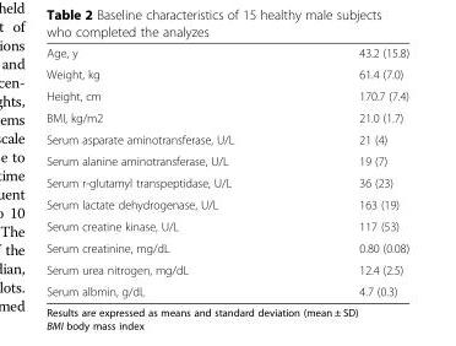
<table><tbody><tr><td>Age, y</td><td>43.2 (15.8)</td></tr><tr><td>Weight, kg</td><td>61.4 (7.0)</td></tr><tr><td>Height, cm</td><td>170.7 (7.4)</td></tr><tr><td>BMI, kg/m2</td><td>21.0 (1.7)</td></tr><tr><td>Serum asparate aminotransferase, U/L</td><td>21 (4)</td></tr><tr><td>Serum alanine aminotransferase, U/L</td><td>19 (7)</td></tr><tr><td>Serum r-glutamyl transpeptidase, U/L</td><td>36 (23)</td></tr><tr><td>Serum lactate dehydrogenase, U/L</td><td>163 (19)</td></tr><tr><td>Serum creatine kinase, U/L</td><td>117 (53)</td></tr><tr><td>Serum creatinine, mg/dL</td><td>0.80 (0.08)</td></tr><tr><td>Serum urea nitrogen, mg/dL</td><td>12.4 (2.5)</td></tr><tr><td>Serum albmin, g/dL</td><td>4.7 (0.3)</td></tr></tbody></table>